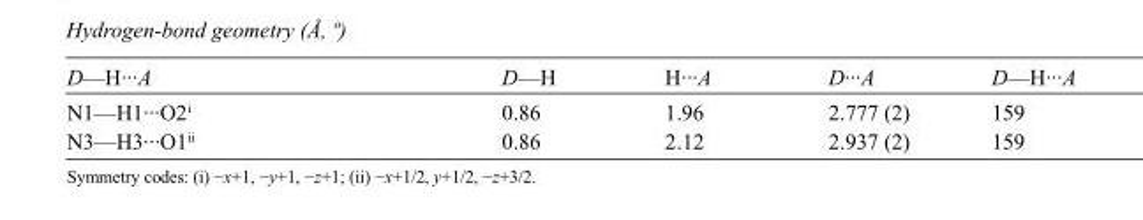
<table><tbody><tr><td>D—H···A</td><td>D—H</td><td>H···A</td><td>D···A</td><td>D—H···A</td></tr><tr><td>N1—H1···O2<sup>i</sup></td><td>0.86</td><td>1.96</td><td>2.777 (2)</td><td>159</td></tr><tr><td>N3—H3···O1<sup>ii</sup></td><td>0.86</td><td>2.12</td><td>2.937 (2)</td><td>159</td></tr></tbody></table>